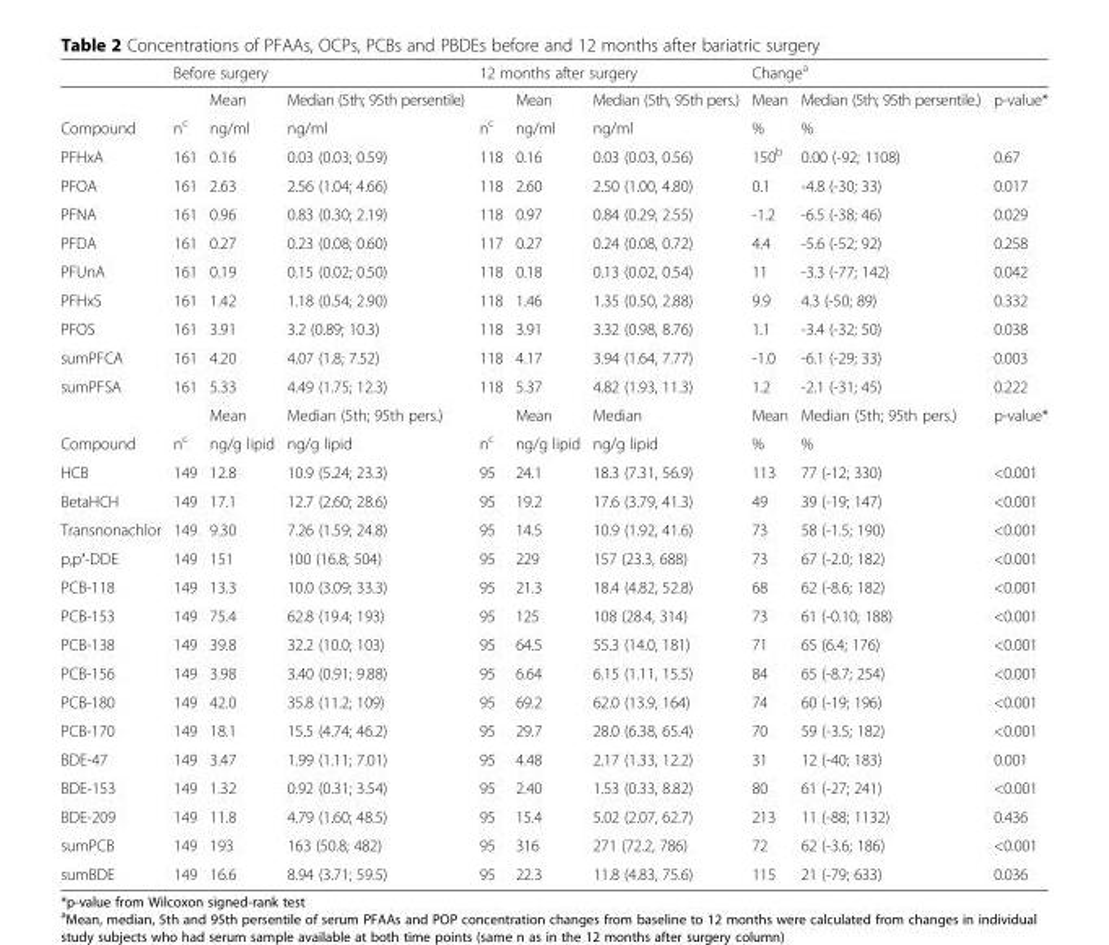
<table><thead><tr><td rowspan="2"></td><td colspan="3">Before surgery</td><td colspan="3">12 months after surgery</td><td colspan="3">Change<sup>a</sup></td></tr><tr><td></td><td>Mean</td><td>Median (5th; 95th persentile)</td><td></td><td>Mean</td><td>Median (5th, 95th pers.)</td><td>Mean</td><td>Median (5th; 95th persentile.)</td><td>p-value*</td></tr></thead><tbody><tr><td>Compound</td><td>n<sup>c</sup></td><td>ng/ml</td><td>ng/ml</td><td>n<sup>c</sup></td><td>ng/ml</td><td>ng/ml</td><td>%</td><td>%</td><td></td></tr><tr><td>PFHxA</td><td>161</td><td>0.16</td><td>0.03 (0.03; 0.59)</td><td>118</td><td>0.16</td><td>0.03 (0.03, 0.56)</td><td>150<sup>b</sup></td><td>0.00 (-92; 1108)</td><td>0.67</td></tr><tr><td>PFOA</td><td>161</td><td>2.63</td><td>2.56 (1.04; 4.66)</td><td>118</td><td>2.60</td><td>2.50 (1.00, 4.80)</td><td>0.1</td><td>-4.8 (-30; 33)</td><td>0.017</td></tr><tr><td>PFNA</td><td>161</td><td>0.96</td><td>0.83 (0.30; 2.19)</td><td>118</td><td>0.97</td><td>0.84 (0.29, 2.55)</td><td>-1.2</td><td>-6.5 (-38; 46)</td><td>0.029</td></tr><tr><td>PFDA</td><td>161</td><td>0.27</td><td>0.23 (0.08; 0.60)</td><td>117</td><td>0.27</td><td>0.24 (0.08, 0.72)</td><td>4.4</td><td>-5.6 (-52; 92)</td><td>0.258</td></tr><tr><td>PFUnA</td><td>161</td><td>0.19</td><td>0.15 (0.02; 0.50)</td><td>118</td><td>0.18</td><td>0.13 (0.02, 0.54)</td><td>11</td><td>-3.3 (-77; 142)</td><td>0.042</td></tr><tr><td>PFHxS</td><td>161</td><td>1.42</td><td>1.18 (0.54; 2.90)</td><td>118</td><td>1.46</td><td>1.35 (0.50, 2.88)</td><td>9.9</td><td>4.3 (-50; 89)</td><td>0.332</td></tr><tr><td>PFOS</td><td>161</td><td>3.91</td><td>3.2 (0.89; 10.3)</td><td>118</td><td>3.91</td><td>3.32 (0.98, 8.76)</td><td>1.1</td><td>-3.4 (-32; 50)</td><td>0.038</td></tr><tr><td>sumPFCA</td><td>161</td><td>4.20</td><td>4.07 (1.8; 7.52)</td><td>118</td><td>4.17</td><td>3.94 (1.64, 7.77)</td><td>-1.0</td><td>-6.1 (-29; 33)</td><td>0.003</td></tr><tr><td rowspan="2">sumPFSA</td><td>161</td><td>5.33</td><td>4.49 (1.75; 12.3)</td><td>118</td><td>5.37</td><td>4.82 (1.93, 11.3)</td><td>1.2</td><td>-2.1 (-31; 45)</td><td>0.222</td></tr><tr><td></td><td>Mean</td><td>Median (5th; 95th pers.)</td><td></td><td>Mean</td><td>Median</td><td>Mean</td><td>Median (5th; 95th pers.)</td><td>p-value*</td></tr><tr><td>Compound</td><td>n<sup>c</sup></td><td>ng/g lipid</td><td>ng/g lipid</td><td>n<sup>c</sup></td><td>ng/g lipid</td><td>ng/g lipid</td><td>%</td><td>%</td><td></td></tr><tr><td>HCB</td><td>149</td><td>12.8</td><td>10.9 (5.24; 23.3)</td><td>95</td><td>24.1</td><td>18.3 (7.31, 56.9)</td><td>113</td><td>77 (-12; 330)</td><td>&lt;0.001</td></tr><tr><td>BetaHCH</td><td>149</td><td>17.1</td><td>12.7 (2.60; 28.6)</td><td>95</td><td>19.2</td><td>17.6 (3.79, 41.3)</td><td>49</td><td>39 (-19; 147)</td><td>&lt;0.001</td></tr><tr><td>Transnonachlor</td><td>149</td><td>9.30</td><td>7.26 (1.59; 24.8)</td><td>95</td><td>14.5</td><td>10.9 (1.92, 41.6)</td><td>73</td><td>58 (-1.5; 190)</td><td>&lt;0.001</td></tr><tr><td>p,p′-DDE</td><td>149</td><td>151</td><td>100 (16.8; 504)</td><td>95</td><td>229</td><td>157 (23.3, 688)</td><td>73</td><td>67 (-2.0; 182)</td><td>&lt;0.001</td></tr><tr><td>PCB-118</td><td>149</td><td>13.3</td><td>10.0 (3.09; 33.3)</td><td>95</td><td>21.3</td><td>18.4 (4.82, 52.8)</td><td>68</td><td>62 (-8.6; 182)</td><td>&lt;0.001</td></tr><tr><td>PCB-153</td><td>149</td><td>75.4</td><td>62.8 (19.4; 193)</td><td>95</td><td>125</td><td>108 (28.4, 314)</td><td>73</td><td>61 (-0.10; 188)</td><td>&lt;0.001</td></tr><tr><td>PCB-138</td><td>149</td><td>39.8</td><td>32.2 (10.0; 103)</td><td>95</td><td>64.5</td><td>55.3 (14.0, 181)</td><td>71</td><td>65 (6.4; 176)</td><td>&lt;0.001</td></tr><tr><td>PCB-156</td><td>149</td><td>3.98</td><td>3.40 (0.91; 9.88)</td><td>95</td><td>6.64</td><td>6.15 (1.11, 15.5)</td><td>84</td><td>65 (-8.7; 254)</td><td>&lt;0.001</td></tr><tr><td>PCB-180</td><td>149</td><td>42.0</td><td>35.8 (11.2; 109)</td><td>95</td><td>69.2</td><td>62.0 (13.9, 164)</td><td>74</td><td>60 (-19; 196)</td><td>&lt;0.001</td></tr><tr><td>PCB-170</td><td>149</td><td>18.1</td><td>15.5 (4.74; 46.2)</td><td>95</td><td>29.7</td><td>28.0 (6.38, 65.4)</td><td>70</td><td>59 (-3.5; 182)</td><td>&lt;0.001</td></tr><tr><td>BDE-47</td><td>149</td><td>3.47</td><td>1.99 (1.11; 7.01)</td><td>95</td><td>4.48</td><td>2.17 (1.33, 12.2)</td><td>31</td><td>12 (-40; 183)</td><td>0.001</td></tr><tr><td>BDE-153</td><td>149</td><td>1.32</td><td>0.92 (0.31; 3.54)</td><td>95</td><td>2.40</td><td>1.53 (0.33, 8.82)</td><td>80</td><td>61 (-27; 241)</td><td>&lt;0.001</td></tr><tr><td>BDE-209</td><td>149</td><td>11.8</td><td>4.79 (1.60; 48.5)</td><td>95</td><td>15.4</td><td>5.02 (2.07, 62.7)</td><td>213</td><td>11 (-88; 1132)</td><td>0.436</td></tr><tr><td>sumPCB</td><td>149</td><td>193</td><td>163 (50.8; 482)</td><td>95</td><td>316</td><td>271 (72.2, 786)</td><td>72</td><td>62 (-3.6; 186)</td><td>&lt;0.001</td></tr><tr><td>sumBDE</td><td>149</td><td>16.6</td><td>8.94 (3.71; 59.5)</td><td>95</td><td>22.3</td><td>11.8 (4.83, 75.6)</td><td>115</td><td>21 (-79; 633)</td><td>0.036</td></tr></tbody></table>